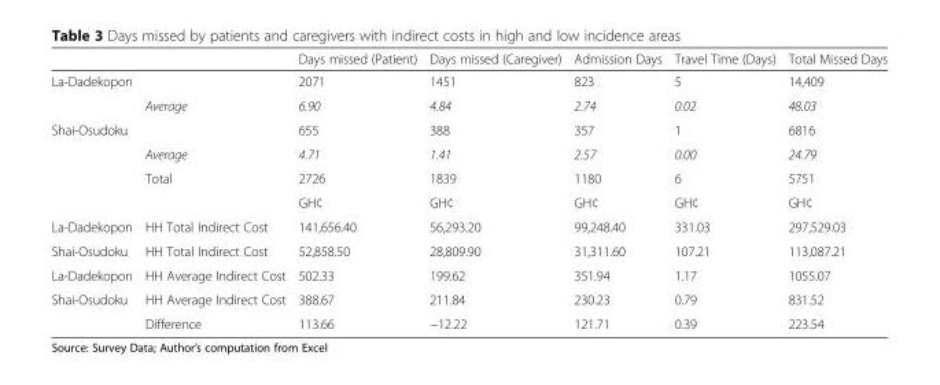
<table><thead><tr><td></td><td></td><td>Days missed (Patient)</td><td>Days missed (Caregiver)</td><td>Admission Days</td><td>Travel Time (Days)</td><td>Total Missed Days</td></tr></thead><tbody><tr><td rowspan="2">La-Dadekopon</td><td></td><td>2071</td><td>1451</td><td>823</td><td>5</td><td>14,409</td></tr><tr><td>Average</td><td>6.90</td><td>4.84</td><td>2.74</td><td>0.02</td><td>48.03</td></tr><tr><td rowspan="4">Shai-Osudoku</td><td></td><td>655</td><td>388</td><td>357</td><td>1</td><td>6816</td></tr><tr><td>Average</td><td>4.71</td><td>1.41</td><td>2.57</td><td>0.00</td><td>24.79</td></tr><tr><td>Total</td><td>2726</td><td>1839</td><td>1180</td><td>6</td><td>5751</td></tr><tr><td></td><td>GH¢</td><td>GH¢</td><td>GH¢</td><td>GH¢</td><td>GH¢</td></tr><tr><td>La-Dadekopon</td><td>HH Total Indirect Cost</td><td>141,656.40</td><td>56,293.20</td><td>99,248.40</td><td>331.03</td><td>297,529.03</td></tr><tr><td>Shai-Osudoku</td><td>HH Total Indirect Cost</td><td>52,858.50</td><td>28,809.90</td><td>31,311.60</td><td>107.21</td><td>113,087.21</td></tr><tr><td>La-Dadekopon</td><td>HH Average Indirect Cost</td><td>502.33</td><td>199.62</td><td>351.94</td><td>1.17</td><td>1055.07</td></tr><tr><td rowspan="2">Shai-Osudoku</td><td>HH Average Indirect Cost</td><td>388.67</td><td>211.84</td><td>230.23</td><td>0.79</td><td>831.52</td></tr><tr><td>Difference</td><td>113.66</td><td>−12.22</td><td>121.71</td><td>0.39</td><td>223.54</td></tr></tbody></table>